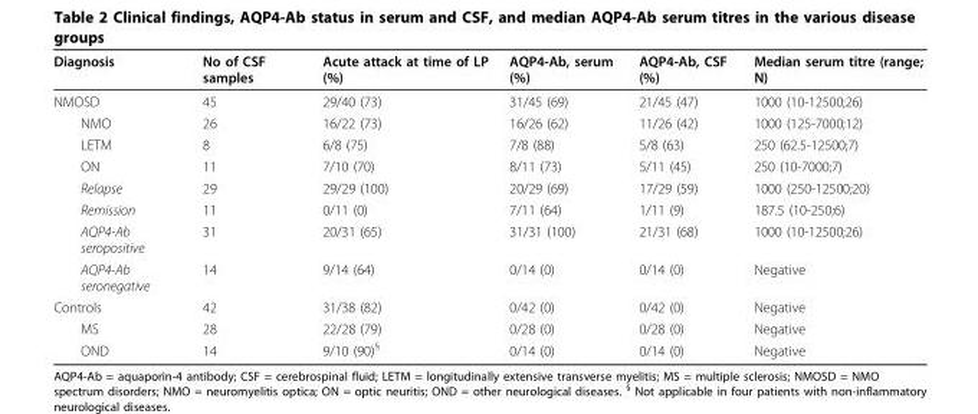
<table><thead><tr><td>Diagnosis</td><td>No of CSF samples</td><td>Acute attack at time of LP (%)</td><td>AQP4-Ab, serum (%)</td><td>AQP4-Ab, CSF (%)</td><td>Median serum titre (range; N)</td></tr></thead><tbody><tr><td>NMOSD</td><td>45</td><td>29/40 (73)</td><td>31/45 (69)</td><td>21/45 (47)</td><td>1000 (10-12500;26)</td></tr><tr><td>NMO</td><td>26</td><td>16/22 (73)</td><td>16/26 (62)</td><td>11/26 (42)</td><td>1000 (125-7000;12)</td></tr><tr><td>LETM</td><td>8</td><td>6/8 (75)</td><td>7/8 (88)</td><td>5/8 (63)</td><td>250 (62.5-12500;7)</td></tr><tr><td>ON</td><td>11</td><td>7/10 (70)</td><td>8/11 (73)</td><td>5/11 (45)</td><td>250 (10-7000;7)</td></tr><tr><td>Relapse</td><td>29</td><td>29/29 (100)</td><td>20/29 (69)</td><td>17/29 (59)</td><td>1000 (250-12500;20)</td></tr><tr><td>Remission</td><td>11</td><td>0/11 (0)</td><td>7/11 (64)</td><td>1/11 (9)</td><td>187.5 (10-250;6)</td></tr><tr><td>AQP4-Ab seropositive</td><td>31</td><td>20/31 (65)</td><td>31/31 (100)</td><td>21/31 (68)</td><td>1000 (10-12500;26)</td></tr><tr><td>AQP4-Ab seronegative</td><td>14</td><td>9/14 (64)</td><td>0/14 (0)</td><td>0/14 (0)</td><td>Negative</td></tr><tr><td>Controls</td><td>42</td><td>31/38 (82)</td><td>0/42 (0)</td><td>0/42 (0)</td><td>Negative</td></tr><tr><td>MS</td><td>28</td><td>22/28 (79)</td><td>0/28 (0)</td><td>0/28 (0)</td><td>Negative</td></tr><tr><td>OND</td><td>14</td><td>9/10 (90)<sup>§</sup></td><td>0/14 (0)</td><td>0/14 (0)</td><td>Negative</td></tr></tbody></table>